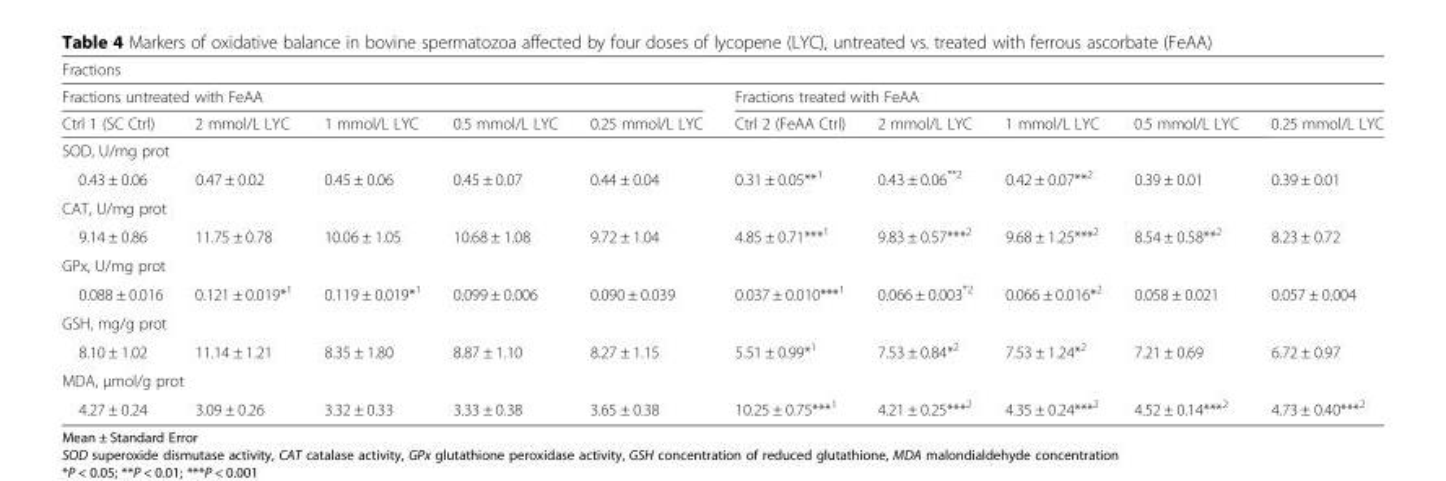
<table><thead><tr><td colspan="10">Fractions</td></tr><tr><td colspan="5">Fractions untreated with FeAA</td><td colspan="5">Fractions treated with FeAA</td></tr><tr><td>Ctrl 1 (SC Ctrl)</td><td>2 mmol/L LYC</td><td>1 mmol/L LYC</td><td>0.5 mmol/L LYC</td><td>0.25 mmol/L LYC</td><td>Ctrl 2 (FeAA Ctrl)</td><td>2 mmol/L LYC</td><td>1 mmol/L LYC</td><td>0.5 mmol/L LYC</td><td>0.25 mmol/L LYC</td></tr></thead><tbody><tr><td colspan="10">SOD, U/mg prot</td></tr><tr><td>0.43 ± 0.06</td><td>0.47 ± 0.02</td><td>0.45 ± 0.06</td><td>0.45 ± 0.07</td><td>0.44 ± 0.04</td><td>0.31 ± 0.05**<sup>1</sup></td><td>0.43 ± 0.06<sup>**2</sup></td><td>0.42 ± 0.07**<sup>2</sup></td><td>0.39 ± 0.01</td><td>0.39 ± 0.01</td></tr><tr><td colspan="10">CAT, U/mg prot</td></tr><tr><td>9.14 ± 0.86</td><td>11.75 ± 0.78</td><td>10.06 ± 1.05</td><td>10.68 ± 1.08</td><td>9.72 ± 1.04</td><td>4.85 ± 0.71***<sup>1</sup></td><td>9.83 ± 0.57***<sup>2</sup></td><td>9.68 ± 1.25***<sup>2</sup></td><td>8.54 ± 0.58**<sup>2</sup></td><td>8.23 ± 0.72</td></tr><tr><td colspan="10">GPx, U/mg prot</td></tr><tr><td>0.088 ± 0.016</td><td>0.121 ± 0.019*<sup>1</sup></td><td>0.119 ± 0.019*<sup>1</sup></td><td>0.099 ± 0.006</td><td>0.090 ± 0.039</td><td>0.037 ± 0.010***<sup>1</sup></td><td>0.066 ± 0.003<sup>*2</sup></td><td>0.066 ± 0.016*<sup>2</sup></td><td>0.058 ± 0.021</td><td>0.057 ± 0.004</td></tr><tr><td colspan="10">GSH, mg/g prot</td></tr><tr><td>8.10 ± 1.02</td><td>11.14 ± 1.21</td><td>8.35 ± 1.80</td><td>8.87 ± 1.10</td><td>8.27 ± 1.15</td><td>5.51 ± 0.99*<sup>1</sup></td><td>7.53 ± 0.84*<sup>2</sup></td><td>7.53 ± 1.24*<sup>2</sup></td><td>7.21 ± 0.69</td><td>6.72 ± 0.97</td></tr><tr><td colspan="10">MDA, μmol/g prot</td></tr><tr><td>4.27 ± 0.24</td><td>3.09 ± 0.26</td><td>3.32 ± 0.33</td><td>3.33 ± 0.38</td><td>3.65 ± 0.38</td><td>10.25 ± 0.75***<sup>1</sup></td><td>4.21 ± 0.25***<sup>2</sup></td><td>4.35 ± 0.24***<sup>2</sup></td><td>4.52 ± 0.14***<sup>2</sup></td><td>4.73 ± 0.40***<sup>2</sup></td></tr></tbody></table>